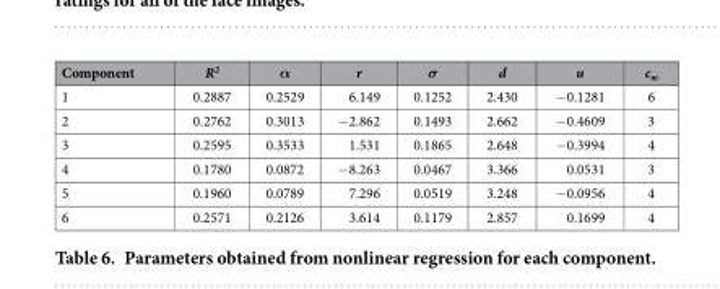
<table><thead><tr><td>Component</td><td>R<sup>2</sup></td><td>α</td><td>r</td><td>σ</td><td>d</td><td>u</td><td>c<sub>m</sub></td></tr></thead><tbody><tr><td>1</td><td>0.2887</td><td>0.2529</td><td>6.149</td><td>0.1252</td><td>2.430</td><td>− 0.1281</td><td>6</td></tr><tr><td>2</td><td>0.2762</td><td>0.3013</td><td>− 2.862</td><td>0.1493</td><td>2.662</td><td>− 0.4609</td><td>3</td></tr><tr><td>3</td><td>0.2595</td><td>0.3533</td><td>1.531</td><td>0.1865</td><td>2.648</td><td>− 0.3994</td><td>4</td></tr><tr><td>4</td><td>0.1780</td><td>0.0872</td><td>− 8.263</td><td>0.0467</td><td>3.366</td><td>0.0531</td><td>3</td></tr><tr><td>5</td><td>0.1960</td><td>0.0789</td><td>7.296</td><td>0.0519</td><td>3.248</td><td>− 0.0956</td><td>4</td></tr><tr><td>6</td><td>0.2571</td><td>0.2126</td><td>3.614</td><td>0.1179</td><td>2.857</td><td>0.1699</td><td>4</td></tr></tbody></table>